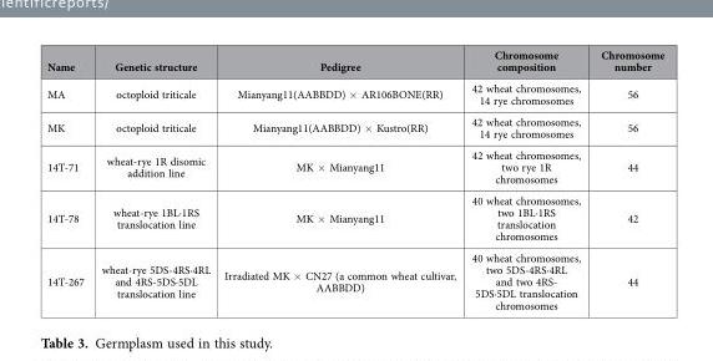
<table><thead><tr><td>Name</td><td>Genetic structure</td><td>Pedigree</td><td>Chromosome composition</td><td>Chromosome number</td></tr></thead><tbody><tr><td>MA</td><td>octoploid triticale</td><td>Mianyang11(AABBDD) × AR106BONE(RR)</td><td>42 wheat chromosomes, 14 rye chromosomes</td><td>56</td></tr><tr><td>MK</td><td>octoploid triticale</td><td>Mianyang11(AABBDD) × Kustro(RR)</td><td>42 wheat chromosomes, 14 rye chromosomes</td><td>56</td></tr><tr><td>14T-71</td><td>wheat-rye 1R disomic addition line</td><td>MK × Mianyang11</td><td>42 wheat chromosomes, two rye 1R chromosomes</td><td>44</td></tr><tr><td>14T-78</td><td>wheat-rye 1BL·1RS translocation line</td><td>MK × Mianyang11</td><td>40 wheat chromosomes, two 1BL·1RS translocation chromosomes</td><td>42</td></tr><tr><td>14T-267</td><td>wheat-rye 5DS-4RS·4RL and 4RS-5DS·5DL translocation line</td><td>Irradiated MK × CN27 (a common wheat cultivar, AABBDD)</td><td>40 wheat chromosomes, two 5DS-4RS·4RL and two 4RS- 5DS·5DL translocation chromosomes</td><td>44</td></tr></tbody></table>